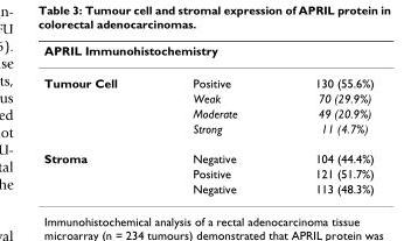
<table><thead><tr><td colspan="2">APRIL Immunohistochemistry</td><td rowspan="2">130 (55.6%)</td></tr><tr><td>Tumour Cell</td><td>Positive</td></tr></thead><tbody><tr><td></td><td>Weak</td><td>70 (29.9%)</td></tr><tr><td></td><td>Moderate</td><td>49 (20.9%)</td></tr><tr><td></td><td>Strong</td><td>11 (4.7%)</td></tr><tr><td rowspan="3">Stroma</td><td>Negative</td><td>104 (44.4%)</td></tr><tr><td>Positive</td><td>121 (51.7%)</td></tr><tr><td>Negative</td><td>113 (48.3%)</td></tr></tbody></table>